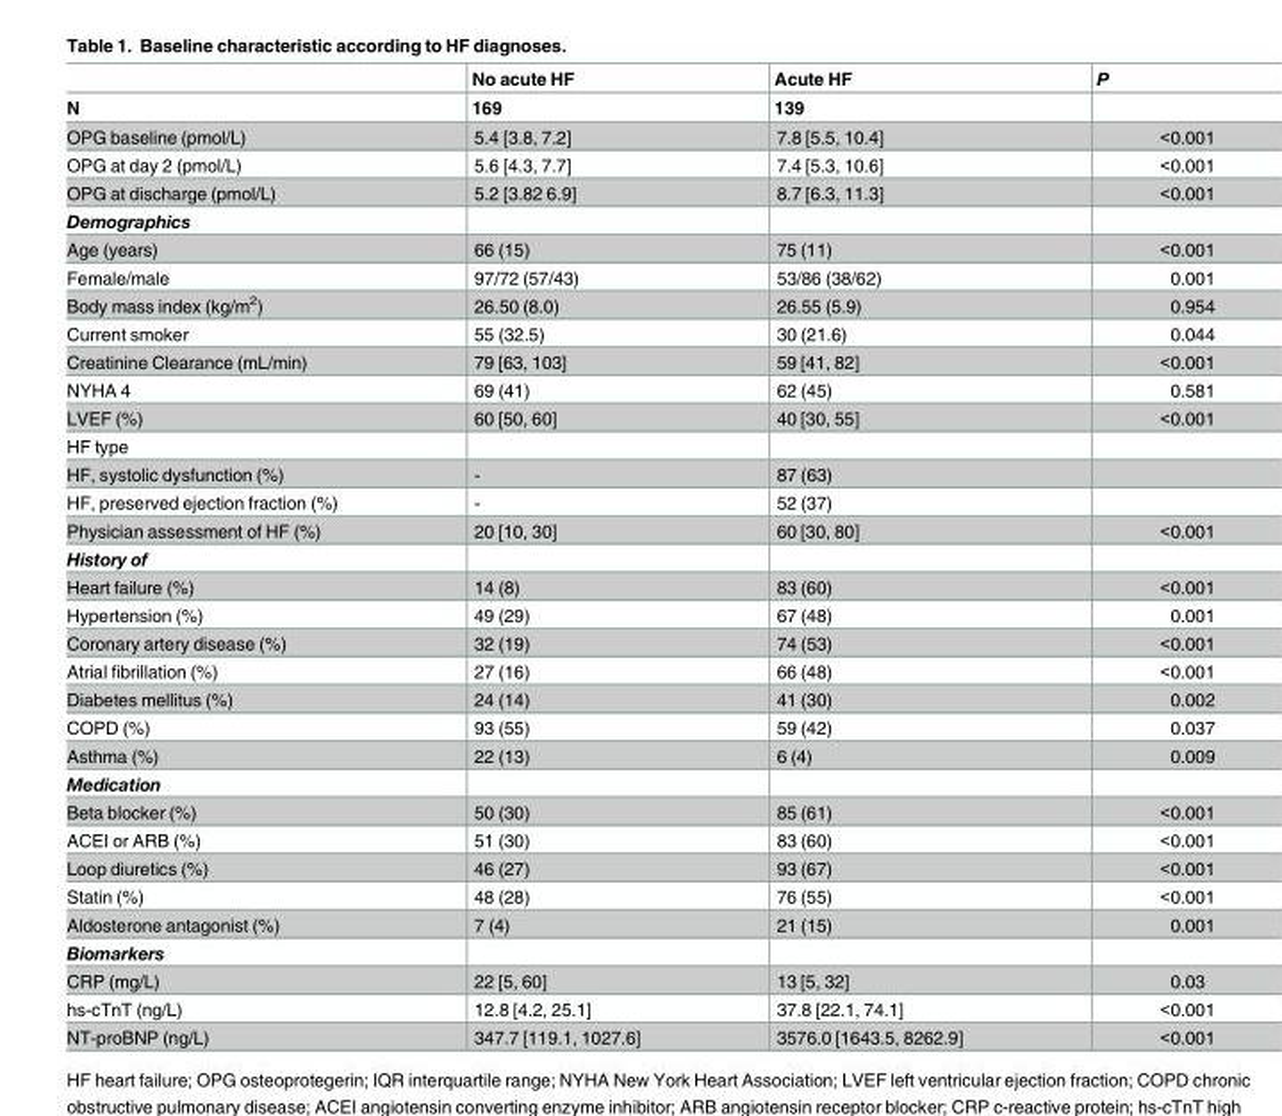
<table><thead><tr><td rowspan="2">N</td><td rowspan="2">No acute HF 169</td><td rowspan="2">Acute HF 139</td><td rowspan="2">P</td></tr><tr></tr></thead><tbody><tr><td>OPG baseline (pmol/L)</td><td>5.4 [3.8, 7.2]</td><td>7.8 [5.5, 10.4]</td><td>&lt;0.001</td></tr><tr><td>OPG at day 2 (pmol/L)</td><td>5.6 [4.3, 7.7]</td><td>7.4 [5.3, 10.6]</td><td>&lt;0.001</td></tr><tr><td>OPG at discharge (pmol/L)</td><td>5.2 [3.82 6.9]</td><td>8.7 [6.3, 11.3]</td><td>&lt;0.001</td></tr><tr><td colspan="4">Demographics</td></tr><tr><td>Age (years)</td><td>66 (15)</td><td>75 (11)</td><td>&lt;0.001</td></tr><tr><td>Female/male</td><td>97/72 (57/43)</td><td>53/86 (38/62)</td><td>0.001</td></tr><tr><td>Body mass index (kg/m<sup>2</sup>)</td><td>26.50 (8.0)</td><td>26.55 (5.9)</td><td>0.954</td></tr><tr><td>Current smoker</td><td>55 (32.5)</td><td>30 (21.6)</td><td>0.044</td></tr><tr><td>Creatinine Clearance (mL/min)</td><td>79 [63, 103]</td><td>59 [41, 82]</td><td>&lt;0.001</td></tr><tr><td>NYHA 4</td><td>69 (41)</td><td>62 (45)</td><td>0.581</td></tr><tr><td>LVEF (%)</td><td>60 [50, 60]</td><td>40 [30, 55]</td><td>&lt;0.001</td></tr><tr><td colspan="4">HF type</td></tr><tr><td>HF, systolic dysfunction (%)</td><td>-</td><td>87 (63)</td><td></td></tr><tr><td>HF, preserved ejection fraction (%)</td><td>-</td><td>52 (37)</td><td></td></tr><tr><td>Physician assessment of HF (%)</td><td>20 [10, 30]</td><td>60 [30, 80]</td><td>&lt;0.001</td></tr><tr><td colspan="4">History of</td></tr><tr><td>Heart failure (%)</td><td>14 (8)</td><td>83 (60)</td><td>&lt;0.001</td></tr><tr><td>Hypertension (%)</td><td>49 (29)</td><td>67 (48)</td><td>0.001</td></tr><tr><td>Coronary artery disease (%)</td><td>32 (19)</td><td>74 (53)</td><td>&lt;0.001</td></tr><tr><td>Atrial fibrillation (%)</td><td>27 (16)</td><td>66 (48)</td><td>&lt;0.001</td></tr><tr><td>Diabetes mellitus (%)</td><td>24 (14)</td><td>41 (30)</td><td>0.002</td></tr><tr><td>COPD (%)</td><td>93 (55)</td><td>59 (42)</td><td>0.037</td></tr><tr><td>Asthma (%)</td><td>22 (13)</td><td>6 (4)</td><td>0.009</td></tr><tr><td colspan="4">Medication</td></tr><tr><td>Beta blocker (%)</td><td>50 (30)</td><td>85 (61)</td><td>&lt;0.001</td></tr><tr><td>ACEI or ARB (%)</td><td>51 (30)</td><td>83 (60)</td><td>&lt;0.001</td></tr><tr><td>Loop diuretics (%)</td><td>46 (27)</td><td>93 (67)</td><td>&lt;0.001</td></tr><tr><td>Statin (%)</td><td>48 (28)</td><td>76 (55)</td><td>&lt;0.001</td></tr><tr><td>Aldosterone antagonist (%)</td><td>7 (4)</td><td>21 (15)</td><td>0.001</td></tr><tr><td colspan="4">Biomarkers</td></tr><tr><td>CRP (mg/L)</td><td>22 [5, 60]</td><td>13 [5, 32]</td><td>0.03</td></tr><tr><td>hs-cTnT (ng/L)</td><td>12.8 [4.2, 25.1]</td><td>37.8 [22.1, 74.1]</td><td>&lt;0.001</td></tr><tr><td>NT-proBNP (ng/L)</td><td>347.7 [119.1, 1027.6]</td><td>3576.0 [1643.5, 8262.9]</td><td>&lt;0.001</td></tr></tbody></table>